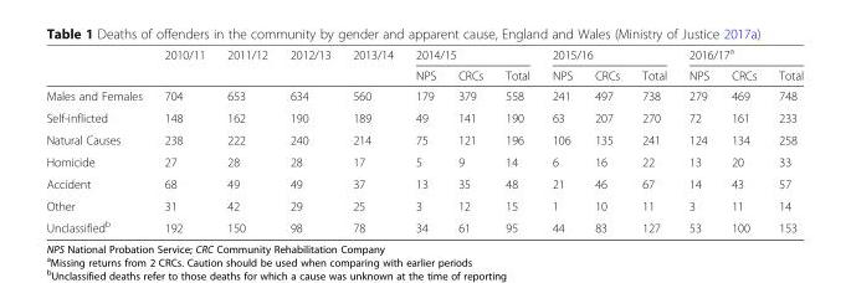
<table><thead><tr><td rowspan="2"></td><td rowspan="2">2010/11</td><td rowspan="2">2011/12</td><td rowspan="2">2012/13</td><td rowspan="2">2013/14</td><td colspan="3">2014/15</td><td colspan="3">2015/16</td><td colspan="3">2016/17<sup>a</sup></td></tr><tr><td>NPS</td><td>CRCs</td><td>Total</td><td>NPS</td><td>CRCs</td><td>Total</td><td>NPS</td><td>CRCs</td><td>Total</td></tr></thead><tbody><tr><td>Males and Females</td><td>704</td><td>653</td><td>634</td><td>560</td><td>179</td><td>379</td><td>558</td><td>241</td><td>497</td><td>738</td><td>279</td><td>469</td><td>748</td></tr><tr><td>Self-inflicted</td><td>148</td><td>162</td><td>190</td><td>189</td><td>49</td><td>141</td><td>190</td><td>63</td><td>207</td><td>270</td><td>72</td><td>161</td><td>233</td></tr><tr><td>Natural Causes</td><td>238</td><td>222</td><td>240</td><td>214</td><td>75</td><td>121</td><td>196</td><td>106</td><td>135</td><td>241</td><td>124</td><td>134</td><td>258</td></tr><tr><td>Homicide</td><td>27</td><td>28</td><td>28</td><td>17</td><td>5</td><td>9</td><td>14</td><td>6</td><td>16</td><td>22</td><td>13</td><td>20</td><td>33</td></tr><tr><td>Accident</td><td>68</td><td>49</td><td>49</td><td>37</td><td>13</td><td>35</td><td>48</td><td>21</td><td>46</td><td>67</td><td>14</td><td>43</td><td>57</td></tr><tr><td>Other</td><td>31</td><td>42</td><td>29</td><td>25</td><td>3</td><td>12</td><td>15</td><td>1</td><td>10</td><td>11</td><td>3</td><td>11</td><td>14</td></tr><tr><td>Unclassified<sup>b</sup></td><td>192</td><td>150</td><td>98</td><td>78</td><td>34</td><td>61</td><td>95</td><td>44</td><td>83</td><td>127</td><td>53</td><td>100</td><td>153</td></tr></tbody></table>